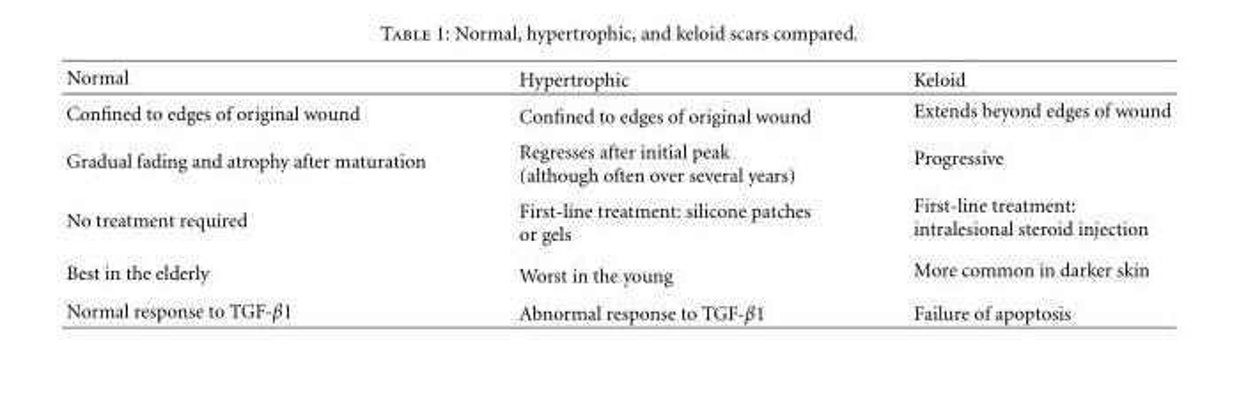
<table><thead><tr><td>Normal</td><td>Hypertrophic</td><td>Keloid</td></tr></thead><tbody><tr><td>Confined to edges of original wound</td><td>Confined to edges of original wound</td><td>Extends beyond edges of wound</td></tr><tr><td>Gradual fading and atrophy after maturation</td><td>Regresses after initial peak (although often over several years)</td><td>Progressive</td></tr><tr><td>No treatment required</td><td>First-line treatment: silicone patches or gels</td><td>First-line treatment: intralesional steroid injection</td></tr><tr><td>Best in the elderly</td><td>Worst in the young</td><td>More common in darker skin</td></tr><tr><td>Normal response to TGF-β1</td><td>Abnormal response to TGF-β1</td><td>Failure of apoptosis</td></tr></tbody></table>